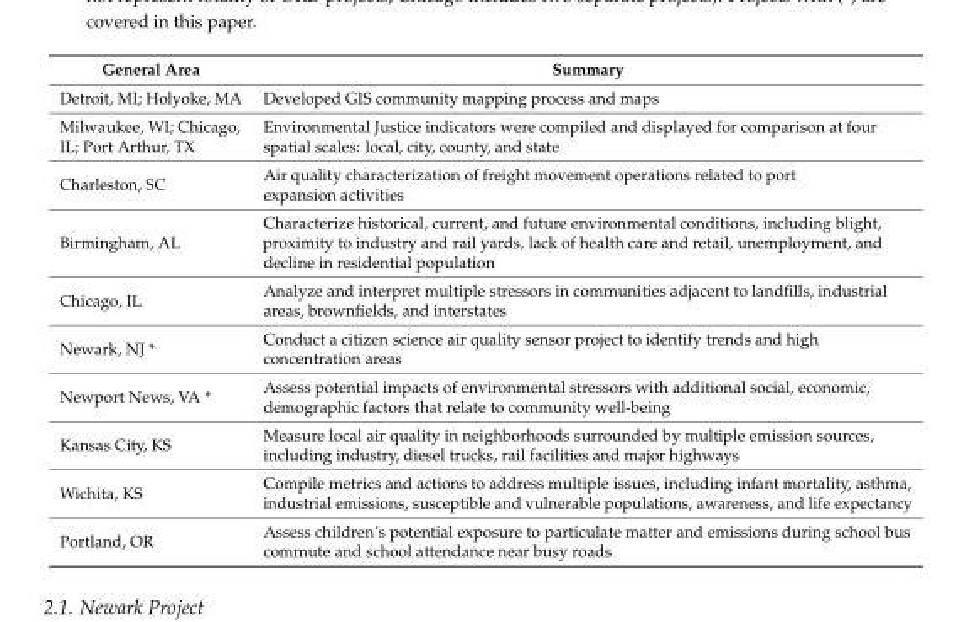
<table><thead><tr><td>General Area</td><td>Summary</td></tr></thead><tbody><tr><td>Detroit, MI; Holyoke, MA</td><td>Developed GIS community mapping process and maps</td></tr><tr><td>Milwaukee, WI; Chicago, IL; Port Arthur, TX</td><td>Environmental Justice indicators were compiled and displayed for comparison at four spatial scales: local, city, county, and state</td></tr><tr><td>Charleston, SC</td><td>Air quality characterization of freight movement operations related to port expansion activities</td></tr><tr><td>Birmingham, AL</td><td>Characterize historical, current, and future environmental conditions, including blight, proximity to industry and rail yards, lack of health care and retail, unemployment, and decline in residential population</td></tr><tr><td>Chicago, IL</td><td>Analyze and interpret multiple stressors in communities adjacent to landfills, industrial areas, brownfields, and interstates</td></tr><tr><td>Newark, NJ *</td><td>Conduct a citizen science air quality sensor project to identify trends and high concentration areas</td></tr><tr><td>Newport News, VA *</td><td>Assess potential impacts of environmental stressors with additional social, economic, demographic factors that relate to community well-being</td></tr><tr><td>Kansas City, KS</td><td>Measure local air quality in neighborhoods surrounded by multiple emission sources, including industry, diesel trucks, rail facilities and major highways</td></tr><tr><td>Wichita, KS</td><td>Compile metrics and actions to address multiple issues, including infant mortality, asthma, industrial emissions, susceptible and vulnerable populations, awareness, and life expectancy</td></tr><tr><td>Portland, OR</td><td>Assess children’s potential exposure to particulate matter and emissions during school bus commute and school attendance near busy roads</td></tr></tbody></table>